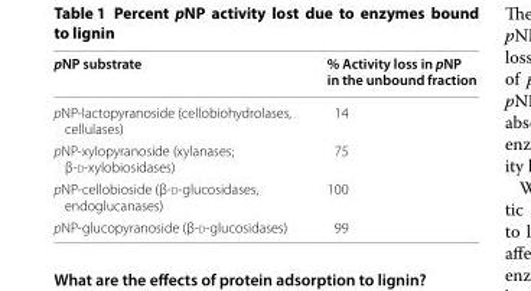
<table><thead><tr><td>pNP substrate</td><td>% Activity loss in pNP in the unbound fraction</td></tr></thead><tbody><tr><td>pNP-lactopyranoside (cellobiohydrolases, cellulases)</td><td>14</td></tr><tr><td>pNP-xylopyranoside (xylanases; β-d-xylobiosidases)</td><td>75</td></tr><tr><td>pNP-cellobioside (β-d-glucosidases, endoglucanases)</td><td>100</td></tr><tr><td>pNP-glucopyranoside (β-d-glucosidases)</td><td>99</td></tr></tbody></table>